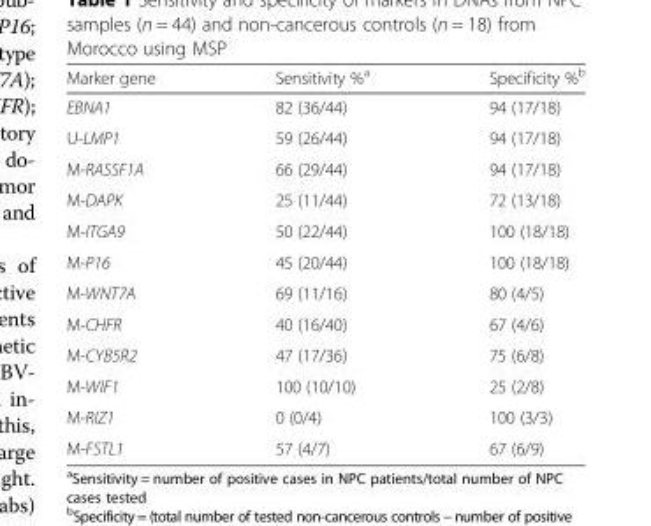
<table><thead><tr><td>Marker gene</td><td>Sensitivity %<sup>a</sup></td><td>Specificity %<sup>b</sup></td></tr></thead><tbody><tr><td>EBNA1</td><td>82 (36/44)</td><td>94 (17/18)</td></tr><tr><td>U-LMP1</td><td>59 (26/44)</td><td>94 (17/18)</td></tr><tr><td>M-RASSF1A</td><td>66 (29/44)</td><td>94 (17/18)</td></tr><tr><td>M-DAPK</td><td>25 (11/44)</td><td>72 (13/18)</td></tr><tr><td>M-ITGA9</td><td>50 (22/44)</td><td>100 (18/18)</td></tr><tr><td>M-P16</td><td>45 (20/44)</td><td>100 (18/18)</td></tr><tr><td>M-WNT7A</td><td>69 (11/16)</td><td>80 (4/5)</td></tr><tr><td>M-CHFR</td><td>40 (16/40)</td><td>67 (4/6)</td></tr><tr><td>M-CYB5R2</td><td>47 (17/36)</td><td>75 (6/8)</td></tr><tr><td>M-WIF1</td><td>100 (10/10)</td><td>25 (2/8)</td></tr><tr><td>M-RIZ1</td><td>0 (0/4)</td><td>100 (3/3)</td></tr><tr><td>M-FSTL1</td><td>57 (4/7)</td><td>67 (6/9)</td></tr></tbody></table>